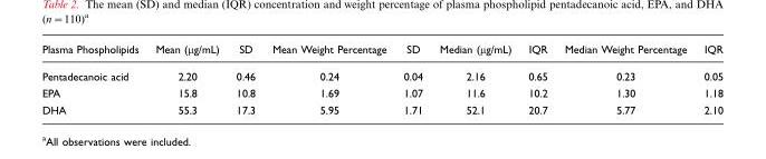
<table><thead><tr><td>Plasma Phospholipids</td><td>Mean (µg/mL)</td><td>SD</td><td>Mean Weight Percentage</td><td>SD</td><td>Median (µg/mL)</td><td>IQR</td><td>Median Weight Percentage</td><td>IQR</td></tr></thead><tbody><tr><td>Pentadecanoic acid</td><td>2.20</td><td>0.46</td><td>0.24</td><td>0.04</td><td>2.16</td><td>0.65</td><td>0.23</td><td>0.05</td></tr><tr><td>EPA</td><td>15.8</td><td>10.8</td><td>1.69</td><td>1.07</td><td>11.6</td><td>10.2</td><td>1.30</td><td>1.18</td></tr><tr><td>DHA</td><td>55.3</td><td>17.3</td><td>5.95</td><td>1.71</td><td>52.1</td><td>20.7</td><td>5.77</td><td>2.10</td></tr></tbody></table>